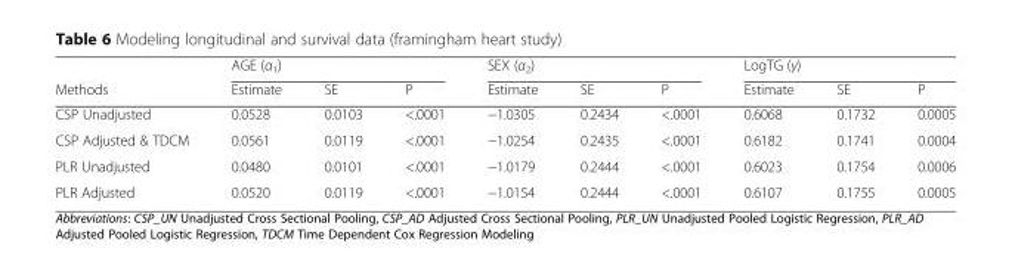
<table><thead><tr><td rowspan="2">Methods</td><td colspan="3">AGE (α<sub>1</sub>)</td><td colspan="3">SEX (α<sub>2</sub>)</td><td colspan="3">LogTG (γ)</td></tr><tr><td>Estimate</td><td>SE</td><td>P</td><td>Estimate</td><td>SE</td><td>P</td><td>Estimate</td><td>SE</td><td>P</td></tr></thead><tbody><tr><td>CSP Unadjusted</td><td>0.0528</td><td>0.0103</td><td>&lt;.0001</td><td>−1.0305</td><td>0.2434</td><td>&lt;.0001</td><td>0.6068</td><td>0.1732</td><td>0.0005</td></tr><tr><td>CSP Adjusted &amp; TDCM</td><td>0.0561</td><td>0.0119</td><td>&lt;.0001</td><td>−1.0254</td><td>0.2435</td><td>&lt;.0001</td><td>0.6182</td><td>0.1741</td><td>0.0004</td></tr><tr><td>PLR Unadjusted</td><td>0.0480</td><td>0.0101</td><td>&lt;.0001</td><td>−1.0179</td><td>0.2444</td><td>&lt;.0001</td><td>0.6023</td><td>0.1754</td><td>0.0006</td></tr><tr><td>PLR Adjusted</td><td>0.0520</td><td>0.0119</td><td>&lt;.0001</td><td>−1.0154</td><td>0.2444</td><td>&lt;.0001</td><td>0.6107</td><td>0.1755</td><td>0.0005</td></tr></tbody></table>